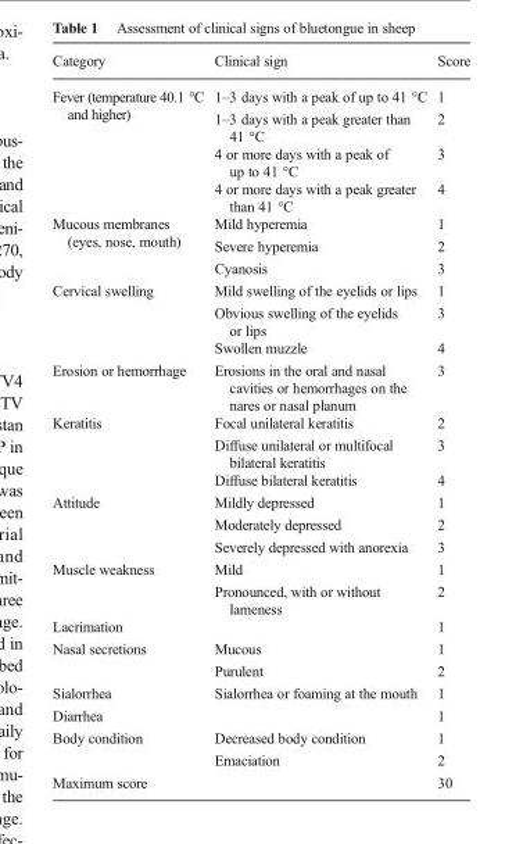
<table><thead><tr><td>Category</td><td>Clinical sign</td><td>Score</td></tr></thead><tbody><tr><td rowspan="4">Fever (temperature 40.1 °C and higher)</td><td>1–3 days with a peak of up to 41 °C</td><td>1</td></tr><tr><td>1–3 days with a peak greater than 41 °C</td><td>2</td></tr><tr><td>4 or more days with a peak of up to 41 °C</td><td>3</td></tr><tr><td>4 or more days with a peak greater than 41 °C</td><td>4</td></tr><tr><td rowspan="3">Mucous membranes (eyes, nose, mouth)</td><td>Mild hyperemia</td><td>1</td></tr><tr><td>Severe hyperemia</td><td>2</td></tr><tr><td>Cyanosis</td><td>3</td></tr><tr><td rowspan="3">Cervical swelling</td><td>Mild swelling of the eyelids or lips</td><td>1</td></tr><tr><td>Obvious swelling of the eyelids or lips</td><td>3</td></tr><tr><td>Swollen muzzle</td><td>4</td></tr><tr><td>Erosion or hemorrhage</td><td>Erosions in the oral and nasal cavities or hemorrhages on the nares or nasal planum</td><td>3</td></tr><tr><td rowspan="3">Keratitis</td><td>Focal unilateral keratitis</td><td>2</td></tr><tr><td>Diffuse unilateral or multifocal bilateral keratitis</td><td>3</td></tr><tr><td>Diffuse bilateral keratitis</td><td>4</td></tr><tr><td rowspan="3">Attitude</td><td>Mildly depressed</td><td>1</td></tr><tr><td>Moderately depressed</td><td>2</td></tr><tr><td>Severely depressed with anorexia</td><td>3</td></tr><tr><td rowspan="2">Muscle weakness</td><td>Mild</td><td>1</td></tr><tr><td>Pronounced, with or without lameness</td><td>2</td></tr><tr><td>Lacrimation</td><td></td><td>1</td></tr><tr><td rowspan="2">Nasal secretions</td><td>Mucous</td><td>1</td></tr><tr><td>Purulent</td><td>2</td></tr><tr><td>Sialorrhea</td><td>Sialorrhea or foaming at the mouth</td><td>1</td></tr><tr><td>Diarrhea</td><td></td><td>1</td></tr><tr><td rowspan="2">Body condition</td><td>Decreased body condition</td><td>1</td></tr><tr><td>Emaciation</td><td>2</td></tr><tr><td colspan="2">Maximum score</td><td>30</td></tr></tbody></table>